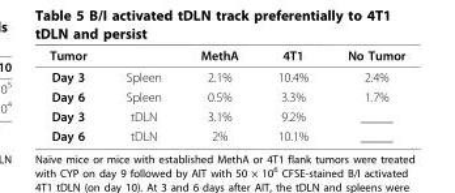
<table><thead><tr><td>Tumor</td><td></td><td>MethA</td><td>4T1</td><td>No Tumor</td></tr></thead><tbody><tr><td>Day 3</td><td>Spleen</td><td>2.1%</td><td>10.4%</td><td>2.4%</td></tr><tr><td>Day 6</td><td>Spleen</td><td>0.5%</td><td>3.3%</td><td>1.7%</td></tr><tr><td>Day 3</td><td>tDLN</td><td>3.1%</td><td>9.2%</td><td>_____</td></tr><tr><td>Day 6</td><td>tDLN</td><td>2%</td><td>10.1%</td><td>_____</td></tr></tbody></table>